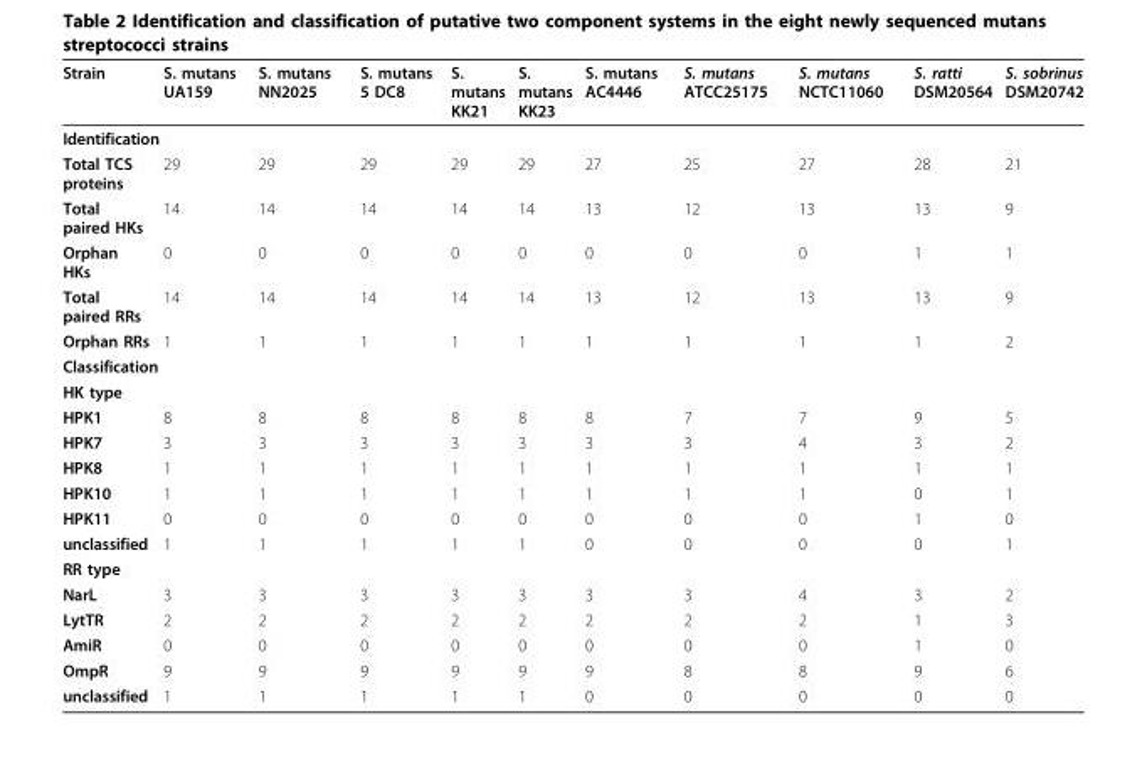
<table><thead><tr><td>Strain</td><td>S. mutans UA159</td><td>S. mutans NN2025</td><td>S. mutans 5 DC8</td><td>S. mutans KK21</td><td>S. mutans KK23</td><td>S. mutans AC4446</td><td>S. mutans ATCC25175</td><td>S. mutans NCTC11060</td><td>S. ratti DSM20564</td><td>S. sobrinus DSM20742</td></tr></thead><tbody><tr><td colspan="11">Identification</td></tr><tr><td>Total TCS proteins</td><td>29</td><td>29</td><td>29</td><td>29</td><td>29</td><td>27</td><td>25</td><td>27</td><td>28</td><td>21</td></tr><tr><td>Total paired HKs</td><td>14</td><td>14</td><td>14</td><td>14</td><td>14</td><td>13</td><td>12</td><td>13</td><td>13</td><td>9</td></tr><tr><td>Orphan HKs</td><td>0</td><td>0</td><td>0</td><td>0</td><td>0</td><td>0</td><td>0</td><td>0</td><td>1</td><td>1</td></tr><tr><td>Total paired RRs</td><td>14</td><td>14</td><td>14</td><td>14</td><td>14</td><td>13</td><td>12</td><td>13</td><td>13</td><td>9</td></tr><tr><td>Orphan RRs</td><td>1</td><td>1</td><td>1</td><td>1</td><td>1</td><td>1</td><td>1</td><td>1</td><td>1</td><td>2</td></tr><tr><td colspan="11">Classification</td></tr><tr><td colspan="11">HK type</td></tr><tr><td>HPK1</td><td>8</td><td>8</td><td>8</td><td>8</td><td>8</td><td>8</td><td>7</td><td>7</td><td>9</td><td>5</td></tr><tr><td>HPK7</td><td>3</td><td>3</td><td>3</td><td>3</td><td>3</td><td>3</td><td>3</td><td>4</td><td>3</td><td>2</td></tr><tr><td>HPK8</td><td>1</td><td>1</td><td>1</td><td>1</td><td>1</td><td>1</td><td>1</td><td>1</td><td>1</td><td>1</td></tr><tr><td>HPK10</td><td>1</td><td>1</td><td>1</td><td>1</td><td>1</td><td>1</td><td>1</td><td>1</td><td>0</td><td>1</td></tr><tr><td>HPK11</td><td>0</td><td>0</td><td>0</td><td>0</td><td>0</td><td>0</td><td>0</td><td>0</td><td>1</td><td>0</td></tr><tr><td>unclassified</td><td>1</td><td>1</td><td>1</td><td>1</td><td>1</td><td>0</td><td>0</td><td>0</td><td>0</td><td>1</td></tr><tr><td colspan="11">RR type</td></tr><tr><td>NarL</td><td>3</td><td>3</td><td>3</td><td>3</td><td>3</td><td>3</td><td>3</td><td>4</td><td>3</td><td>2</td></tr><tr><td>LytTR</td><td>2</td><td>2</td><td>2</td><td>2</td><td>2</td><td>2</td><td>2</td><td>2</td><td>1</td><td>3</td></tr><tr><td>AmiR</td><td>0</td><td>0</td><td>0</td><td>0</td><td>0</td><td>0</td><td>0</td><td>0</td><td>1</td><td>0</td></tr><tr><td>OmpR</td><td>9</td><td>9</td><td>9</td><td>9</td><td>9</td><td>9</td><td>8</td><td>8</td><td>9</td><td>6</td></tr><tr><td>unclassified</td><td>1</td><td>1</td><td>1</td><td>1</td><td>1</td><td>0</td><td>0</td><td>0</td><td>0</td><td>0</td></tr></tbody></table>